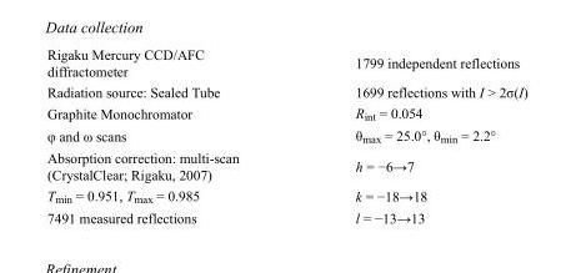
<table><tbody><tr><td>Rigaku Mercury CCD/AFC diffractometer</td><td>1799 independent reflections</td></tr><tr><td>Radiation source: Sealed Tube</td><td>1699 reflections with I &gt; 2σ(I)</td></tr><tr><td>Graphite Monochromator</td><td>R<sub>int</sub> = 0.054</td></tr><tr><td>φ and ω scans</td><td>θ<sub>max</sub> = 25.0°, θ<sub>min</sub> = 2.2°</td></tr><tr><td>Absorption correction: multi-scan (CrystalClear; Rigaku, 2007)</td><td>h = −6→7</td></tr><tr><td>T<sub>min</sub> = 0.951, T<sub>max</sub> = 0.985</td><td>k = −18→18</td></tr><tr><td>7491 measured reflections</td><td>l = −13→13</td></tr></tbody></table>